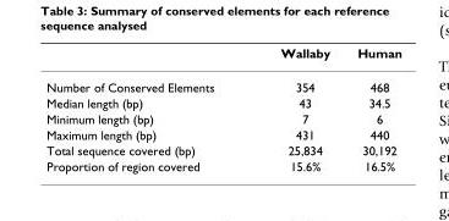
<table><thead><tr><td></td><td>Wallaby</td><td>Human</td></tr></thead><tbody><tr><td>Number of Conserved Elements</td><td>354</td><td>468</td></tr><tr><td>Median length (bp)</td><td>43</td><td>34.5</td></tr><tr><td>Minimum length (bp)</td><td>7</td><td>6</td></tr><tr><td>Maximum length (bp)</td><td>431</td><td>440</td></tr><tr><td>Total sequence covered (bp)</td><td>25,834</td><td>30,192</td></tr><tr><td>Proportion of region covered</td><td>15.6%</td><td>16.5%</td></tr></tbody></table>